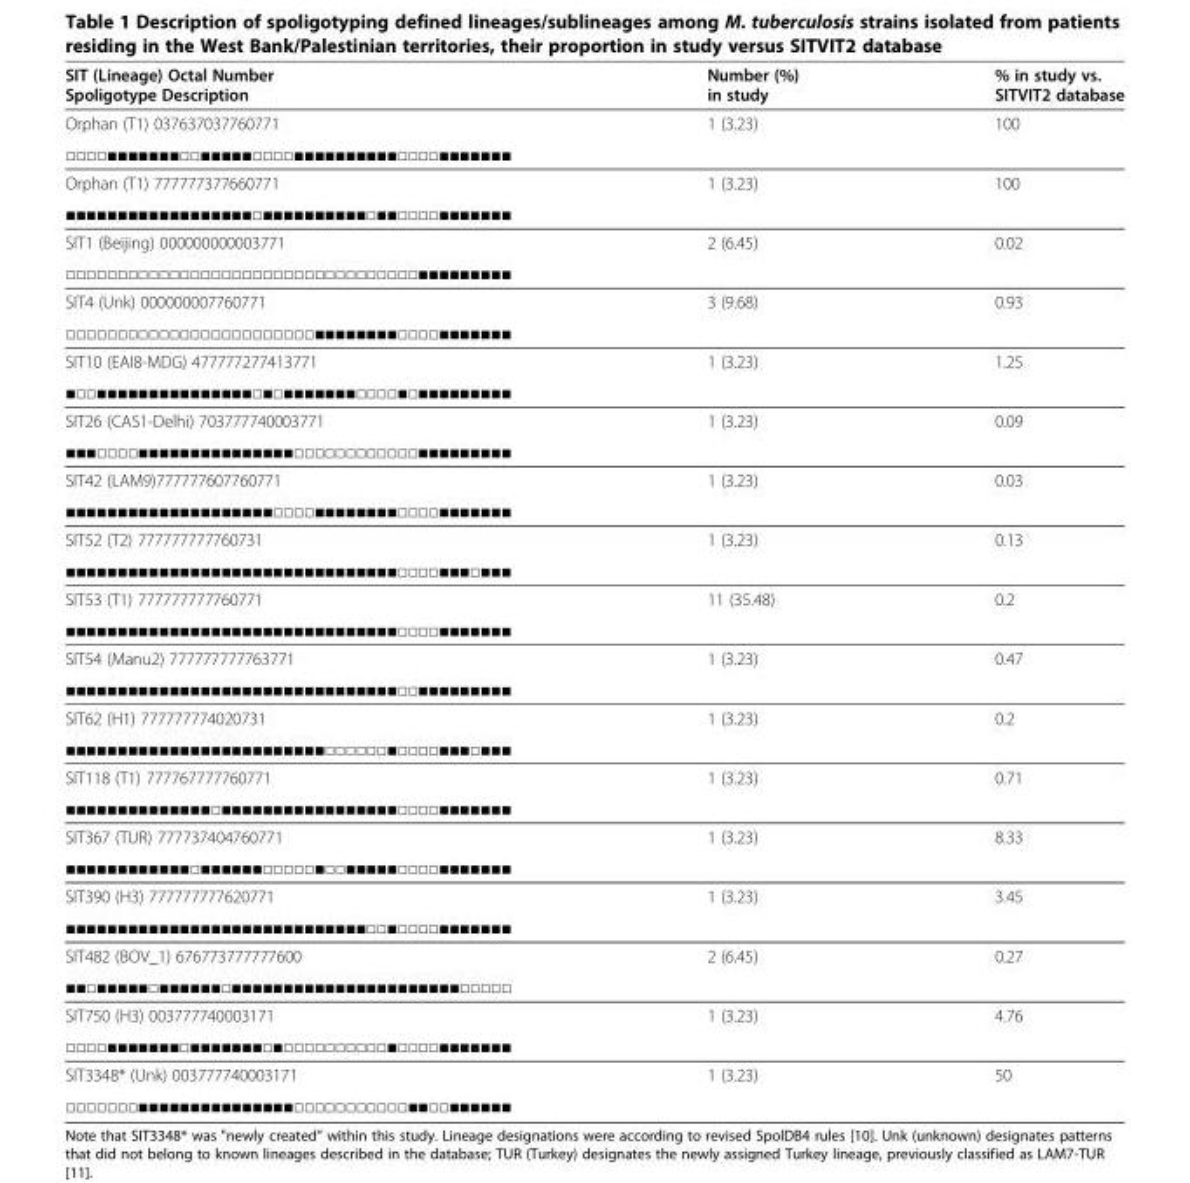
<table><thead><tr><td>SIT (Lineage) Octal Number Spoligotype Description</td><td>Number (%) in study</td><td>% in study vs. SITVIT2 database</td></tr></thead><tbody><tr><td>Orphan (T1) 037637037760771</td><td>1 (3.23)</td><td>100</td></tr><tr><td colspan="3">□□□□■■■■■■■□□■■■■■□□□□■■■■■■■■■■□□□□■■■■■■■</td></tr><tr><td>Orphan (T1) 777777377660771</td><td>1 (3.23)</td><td>100</td></tr><tr><td colspan="3">■■■■■■■■■■■■■■■■■■□■■■■■■■■■■□■■□□□□■■■■■■■</td></tr><tr><td>SIT1 (Beijing) 000000000003771</td><td>2 (6.45)</td><td>0.02</td></tr><tr><td colspan="3">□□□□□□□□□□□□□□□□□□□□□□□□□□□□□□□□□□■■■■■■■■■</td></tr><tr><td>SIT4 (Unk) 000000007760771</td><td>3 (9.68)</td><td>0.93</td></tr><tr><td colspan="3">□□□□□□□□□□□□□□□□□□□□□□□□■■■■■■■■□□□□■■■■■■■</td></tr><tr><td>SIT10 (EAI8-MDG) 477777277413771</td><td>1 (3.23)</td><td>1.25</td></tr><tr><td colspan="3">■□□■■■■■■■■■■■■■■■□■□■■■■■■■□□□□■□■■■■■■■■■</td></tr><tr><td>SIT26 (CAS1-Delhi) 703777740003771</td><td>1 (3.23)</td><td>0.09</td></tr><tr><td colspan="3">■■■□□□□■■■■■■■■■■■■■■■□□□□□□□□□□□□■■■■■■■■■</td></tr><tr><td>SIT42 (LAM9)777777607760771</td><td>1 (3.23)</td><td>0.03</td></tr><tr><td colspan="3">■■■■■■■■■■■■■■■■■■■■□□□□■■■■■■■■□□□□■■■■■■■</td></tr><tr><td>SIT52 (T2) 777777777760731</td><td>1 (3.23)</td><td>0.13</td></tr><tr><td colspan="3">■■■■■■■■■■■■■■■■■■■■■■■■■■■■■■■■□□□□■■■□■■■</td></tr><tr><td>SIT53 (T1) 777777777760771</td><td>11 (35.48)</td><td>0.2</td></tr><tr><td colspan="3">■■■■■■■■■■■■■■■■■■■■■■■■■■■■■■■■□□□□■■■■■■■</td></tr><tr><td>SIT54 (Manu2) 777777777763771</td><td>1 (3.23)</td><td>0.47</td></tr><tr><td colspan="3">■■■■■■■■■■■■■■■■■■■■■■■■■■■■■■■■□□■■■■■■■■■</td></tr><tr><td>SIT62 (H1) 777777774020731</td><td>1 (3.23)</td><td>0.2</td></tr><tr><td colspan="3">■■■■■■■■■■■■■■■■■■■■■■■■■□□□□□□■□□□□■■■□■■■</td></tr><tr><td>SIT118 (T1) 777767777760771</td><td>1 (3.23)</td><td>0.71</td></tr><tr><td colspan="3">■■■■■■■■■■■■■■□■■■■■■■■■■■■■■■■■□□□□■■■■■■■</td></tr><tr><td>SIT367 (TUR) 777737404760771</td><td>1 (3.23)</td><td>8.33</td></tr><tr><td colspan="3">■■■■■■■■■■■■□■■■■■■□□□□□■□□■■■■■□□□□■■■■■■■</td></tr><tr><td>SIT390 (H3) 777777777620771</td><td>1 (3.23)</td><td>3.45</td></tr><tr><td colspan="3">■■■■■■■■■■■■■■■■■■■■■■■■■■■■■□□■□□□□■■■■■■■</td></tr><tr><td>SIT482 (BOV_1) 676773777777600</td><td>2 (6.45)</td><td>0.27</td></tr><tr><td colspan="3">■■□■■■■■□■■■■■■□■■■■■■■■■■■■■■■■■■■■■■□□□□□</td></tr><tr><td>SIT750 (H3) 003777740003171</td><td>1 (3.23)</td><td>4.76</td></tr><tr><td colspan="3">□□□□■■■■■■■□■■■■■■■□■□□□□□□□□□□■□□□□■■■■■■■</td></tr><tr><td>SIT3348* (Unk) 003777740003171</td><td>1 (3.23)</td><td>50</td></tr><tr><td>□□□□□□□■■■■■■■■■■■■■■■□□□□□□□□□□□■■□□■■■■■■</td><td></td><td></td></tr></tbody></table>